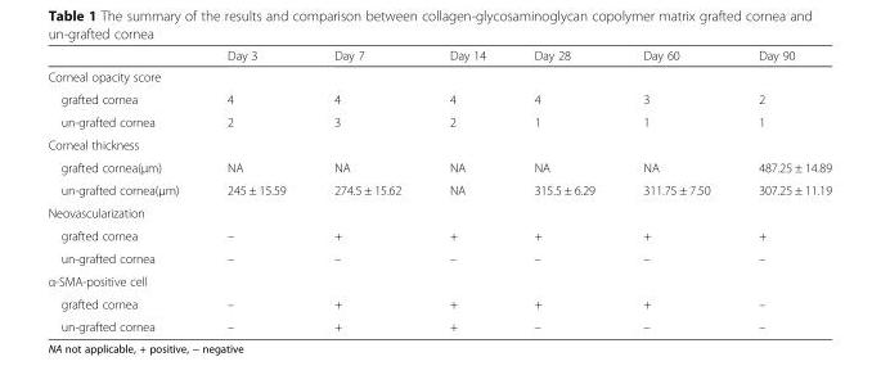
<table><thead><tr><td></td><td>Day 3</td><td>Day 7</td><td>Day 14</td><td>Day 28</td><td>Day 60</td><td>Day 90</td></tr></thead><tbody><tr><td colspan="7">Corneal opacity score</td></tr><tr><td>grafted cornea</td><td>4</td><td>4</td><td>4</td><td>4</td><td>3</td><td>2</td></tr><tr><td>un-grafted cornea</td><td>2</td><td>3</td><td>2</td><td>1</td><td>1</td><td>1</td></tr><tr><td colspan="7">Corneal thickness</td></tr><tr><td>grafted cornea(μm)</td><td>NA</td><td>NA</td><td>NA</td><td>NA</td><td>NA</td><td>487.25 ± 14.89</td></tr><tr><td>un-grafted cornea(μm)</td><td>245 ± 15.59</td><td>274.5 ± 15.62</td><td>NA</td><td>315.5 ± 6.29</td><td>311.75 ± 7.50</td><td>307.25 ± 11.19</td></tr><tr><td colspan="7">Neovascularization</td></tr><tr><td>grafted cornea</td><td>–</td><td>+</td><td>+</td><td>+</td><td>+</td><td>+</td></tr><tr><td>un-grafted cornea</td><td>–</td><td>–</td><td>–</td><td>–</td><td>–</td><td>–</td></tr><tr><td colspan="7">α-SMA-positive cell</td></tr><tr><td>grafted cornea</td><td>–</td><td>+</td><td>+</td><td>+</td><td>+</td><td>–</td></tr><tr><td>un-grafted cornea</td><td>–</td><td>+</td><td>+</td><td>–</td><td>–</td><td>–</td></tr></tbody></table>